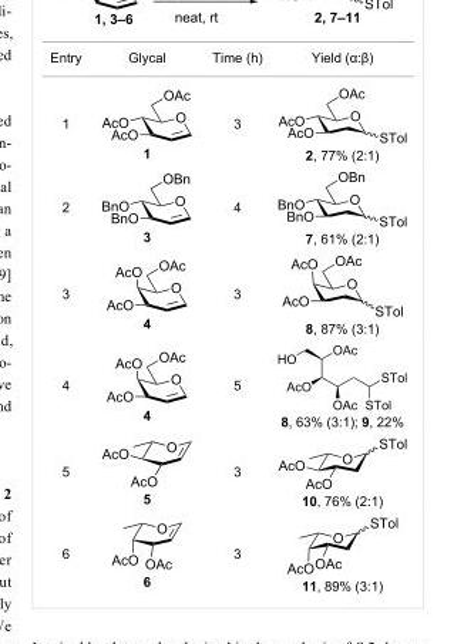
<table><tbody><tr><td>Entry</td><td>Glycal</td><td>Time (h)</td><td>Yield (α:β)</td></tr><tr><td>1</td><td>1</td><td>3</td><td>2, 77% (2:1)</td></tr><tr><td>2</td><td>3</td><td>4</td><td>7, 61% (2:1)</td></tr><tr><td>3</td><td>4</td><td>3</td><td>8, 87% (3:1)</td></tr><tr><td>4</td><td>4</td><td>5</td><td>8, 63% (3:1); 9, 22%</td></tr><tr><td>5</td><td>5</td><td>3</td><td>10, 76% (2:1)</td></tr><tr><td>6</td><td>6</td><td>3</td><td>11, 89% (3:1)</td></tr></tbody></table>